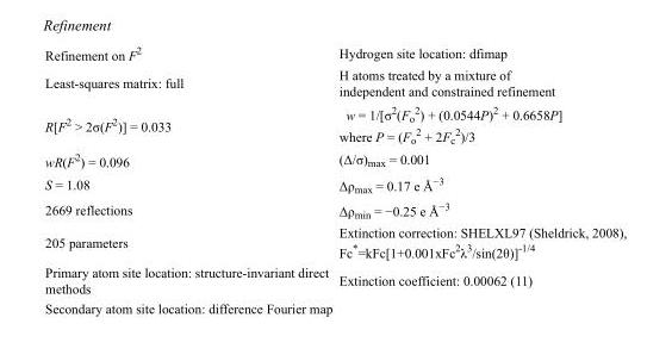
<table><tbody><tr><td>Refinement on F<sup>2</sup></td><td>Hydrogen site location: dfimap</td></tr><tr><td>Least-squares matrix: full</td><td>H atoms treated by a mixture of independent and constrained refinement</td></tr><tr><td>R[F<sup>2</sup> &gt; 2σ(F<sup>2</sup>)] = 0.033</td><td>w = 1/[σ<sup>2</sup>(F<sub>o</sub> <sup>2</sup>) + (0.0544P)<sup>2</sup> + 0.6658P] where P = (F<sub>o</sub> <sup>2</sup> + 2F<sub>c</sub> <sup>2</sup>)/3</td></tr><tr><td>wR(F<sup>2</sup>) = 0.096</td><td>(Δ/σ)<sub>max</sub> = 0.001</td></tr><tr><td>S = 1.08</td><td>Δρ<sub>max</sub> = 0.17 e Å<sup>−3</sup></td></tr><tr><td>2669 reflections</td><td>Δρ<sub>min</sub> = −0.25 e Å<sup>−3</sup></td></tr><tr><td>205 parameters</td><td>Extinction correction: SHELXL97 (Sheldrick, 2008), Fc*=kFc[1+0.001xFc<sup>2</sup>λ<sup>3</sup>/sin(2θ)]<sup>-1/4</sup></td></tr><tr><td>Primary atom site location: structure-invariant direct methods</td><td>Extinction coefficient: 0.00062 (11)</td></tr><tr><td>Secondary atom site location: difference Fourier map</td><td></td></tr></tbody></table>